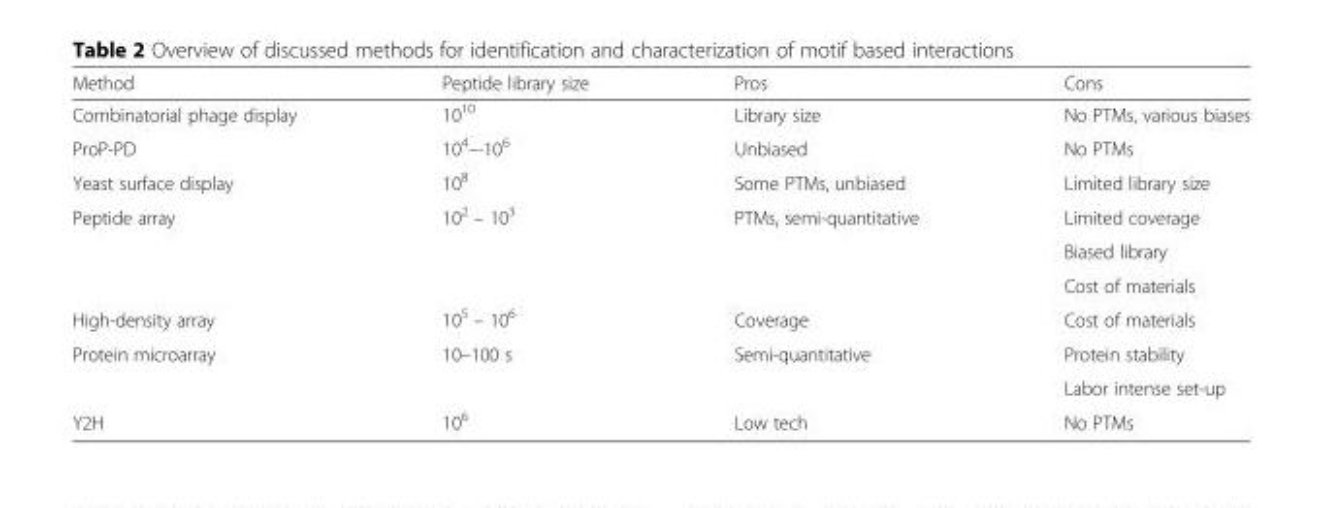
<table><thead><tr><td>Method</td><td>Peptide library size</td><td>Pros</td><td>Cons</td></tr></thead><tbody><tr><td>Combinatorial phage display</td><td>10<sup>10</sup></td><td>Library size</td><td>No PTMs, various biases</td></tr><tr><td>ProP-PD</td><td>10<sup>4</sup>–-10<sup>6</sup></td><td>Unbiased</td><td>No PTMs</td></tr><tr><td>Yeast surface display</td><td>10<sup>8</sup></td><td>Some PTMs, unbiased</td><td>Limited library size</td></tr><tr><td rowspan="3">Peptide array</td><td rowspan="3">10<sup>2</sup> – 10<sup>3</sup></td><td rowspan="3">PTMs, semi-quantitative</td><td>Limited coverage</td></tr><tr><td>Biased library</td></tr><tr><td>Cost of materials</td></tr><tr><td>High-density array</td><td>10<sup>5</sup> – 10<sup>6</sup></td><td>Coverage</td><td>Cost of materials</td></tr><tr><td rowspan="2">Protein microarray</td><td rowspan="2">10–100 s</td><td rowspan="2">Semi-quantitative</td><td>Protein stability</td></tr><tr><td>Labor intense set-up</td></tr><tr><td>Y2H</td><td>10<sup>6</sup></td><td>Low tech</td><td>No PTMs</td></tr></tbody></table>